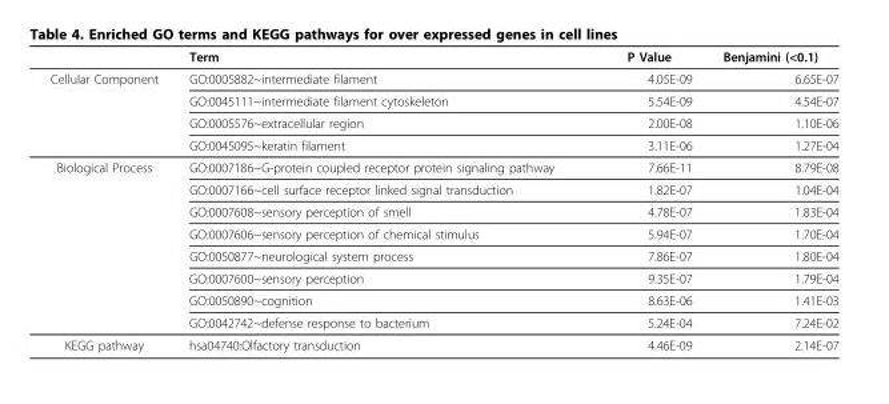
<table><thead><tr><td></td><td>Term</td><td>P Value</td><td>Benjamini (&lt;0.1)</td></tr></thead><tbody><tr><td rowspan="4">Cellular Component</td><td>GO:0005882~intermediate filament</td><td>4.05E-09</td><td>6.65E-07</td></tr><tr><td>GO:0045111~intermediate filament cytoskeleton</td><td>5.54E-09</td><td>4.54E-07</td></tr><tr><td>GO:0005576~extracellular region</td><td>2.00E-08</td><td>1.10E-06</td></tr><tr><td>GO:0045095~keratin filament</td><td>3.11E-06</td><td>1.27E-04</td></tr><tr><td rowspan="8">Biological Process</td><td>GO:0007186~G-protein coupled receptor protein signaling pathway</td><td>7.66E-11</td><td>8.79E-08</td></tr><tr><td>GO:0007166~cell surface receptor linked signal transduction</td><td>1.82E-07</td><td>1.04E-04</td></tr><tr><td>GO:0007608~sensory perception of smell</td><td>4.78E-07</td><td>1.83E-04</td></tr><tr><td>GO:0007606~sensory perception of chemical stimulus</td><td>5.94E-07</td><td>1.70E-04</td></tr><tr><td>GO:0050877~neurological system process</td><td>7.86E-07</td><td>1.80E-04</td></tr><tr><td>GO:0007600~sensory perception</td><td>9.35E-07</td><td>1.79E-04</td></tr><tr><td>GO:0050890~cognition</td><td>8.63E-06</td><td>1.41E-03</td></tr><tr><td>GO:0042742~defense response to bacterium</td><td>5.24E-04</td><td>7.24E-02</td></tr><tr><td>KEGG pathway</td><td>hsa04740:Olfactory transduction</td><td>4.46E-09</td><td>2.14E-07</td></tr></tbody></table>